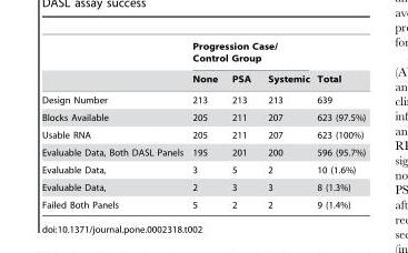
<table><thead><tr><td rowspan="2"></td><td colspan="3">Progression Case/ Control Group</td><td rowspan="2">Total</td></tr><tr><td>None</td><td>PSA</td><td>Systemic</td></tr></thead><tbody><tr><td>Design Number</td><td>213</td><td>213</td><td>213</td><td>639</td></tr><tr><td>Blocks Available</td><td>205</td><td>211</td><td>207</td><td>623 (97.5%)</td></tr><tr><td>Usable RNA</td><td>205</td><td>211</td><td>207</td><td>623 (100%)</td></tr><tr><td>Evaluable Data, Both DASL Panels</td><td>195</td><td>201</td><td>200</td><td>596 (95.7%)</td></tr><tr><td>Evaluable Data,</td><td>3</td><td>5</td><td>2</td><td>10 (1.6%)</td></tr><tr><td>Evaluable Data,</td><td>2</td><td>3</td><td>3</td><td>8 (1.3%)</td></tr><tr><td>Failed Both Panels</td><td>5</td><td>2</td><td>2</td><td>9 (1.4%)</td></tr></tbody></table>